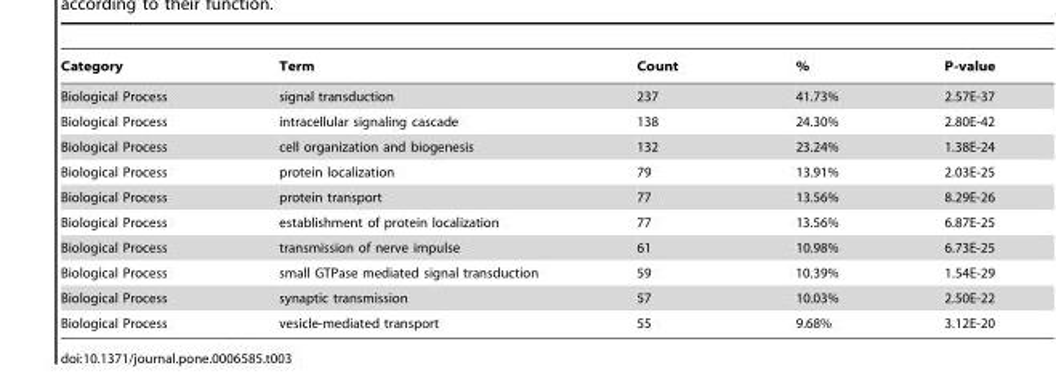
<table><thead><tr><td>Category</td><td>Term</td><td>Count</td><td>%</td><td>P-value</td></tr></thead><tbody><tr><td>Biological Process</td><td>signal transduction</td><td>237</td><td>41.73%</td><td>2.57E-37</td></tr><tr><td>Biological Process</td><td>intracellular signaling cascade</td><td>138</td><td>24.30%</td><td>2.80E-42</td></tr><tr><td>Biological Process</td><td>cell organization and biogenesis</td><td>132</td><td>23.24%</td><td>1.38E-24</td></tr><tr><td>Biological Process</td><td>protein localization</td><td>79</td><td>13.91%</td><td>2.03E-25</td></tr><tr><td>Biological Process</td><td>protein transport</td><td>77</td><td>13.56%</td><td>8.29E-26</td></tr><tr><td>Biological Process</td><td>establishment of protein localization</td><td>77</td><td>13.56%</td><td>6.87E-25</td></tr><tr><td>Biological Process</td><td>transmission of nerve impulse</td><td>61</td><td>10.98%</td><td>6.73E-25</td></tr><tr><td>Biological Process</td><td>small GTPase mediated signal transduction</td><td>59</td><td>10.39%</td><td>1.54E-29</td></tr><tr><td>Biological Process</td><td>synaptic transmission</td><td>57</td><td>10.03%</td><td>2.50E-22</td></tr><tr><td>Biological Process</td><td>vesicle-mediated transport</td><td>55</td><td>9.68%</td><td>3.12E-20</td></tr></tbody></table>